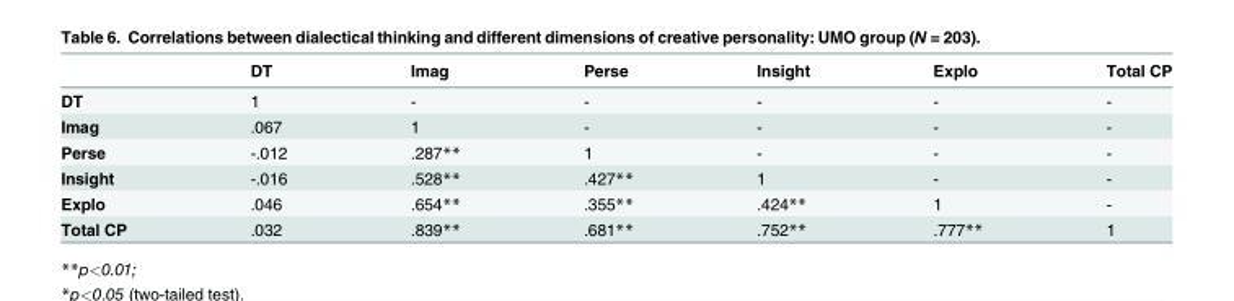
<table><thead><tr><td></td><td>DT</td><td>Imag</td><td>Perse</td><td>Insight</td><td>Explo</td><td>Total CP</td></tr></thead><tbody><tr><td>DT</td><td>1</td><td>-</td><td>-</td><td>-</td><td>-</td><td>-</td></tr><tr><td>Imag</td><td>.067</td><td>1</td><td>-</td><td>-</td><td>-</td><td>-</td></tr><tr><td>Perse</td><td>-.012</td><td>.287**</td><td>1</td><td>-</td><td>-</td><td>-</td></tr><tr><td>Insight</td><td>-.016</td><td>.528**</td><td>.427**</td><td>1</td><td>-</td><td>-</td></tr><tr><td>Explo</td><td>.046</td><td>.654**</td><td>.355**</td><td>.424**</td><td>1</td><td>-</td></tr><tr><td>Total CP</td><td>.032</td><td>.839**</td><td>.681**</td><td>.752**</td><td>.777**</td><td>1</td></tr></tbody></table>